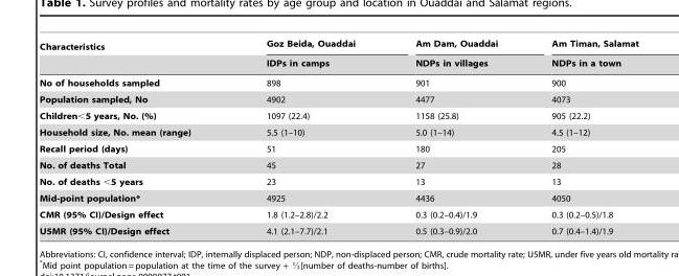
<table><thead><tr><td rowspan="2">Characteristics</td><td rowspan="2">Goz Beida, Ouaddai IDPs in camps</td><td rowspan="2">Am Dam, Ouaddai NDPs in villages</td><td rowspan="2">Am Timan, Salamat NDPs in a town</td></tr><tr></tr></thead><tbody><tr><td>No of households sampled</td><td>898</td><td>901</td><td>900</td></tr><tr><td>Population sampled, No</td><td>4902</td><td>4477</td><td>4073</td></tr><tr><td>Children&lt;5 years, No. (%)</td><td>1097 (22.4)</td><td>1158 (25.8)</td><td>905 (22.2)</td></tr><tr><td>Household size, No. mean (range)</td><td>5.5 (1–10)</td><td>5.0 (1–14)</td><td>4.5 (1–12)</td></tr><tr><td>Recall period (days)</td><td>51</td><td>180</td><td>205</td></tr><tr><td>No. of deaths Total</td><td>45</td><td>27</td><td>28</td></tr><tr><td>No. of deaths &lt;5 years</td><td>23</td><td>13</td><td>13</td></tr><tr><td>Mid-point population*</td><td>4925</td><td>4436</td><td>4050</td></tr><tr><td>CMR (95% CI)/Design effect</td><td>1.8 (1.2–2.8)/2.2</td><td>0.3 (0.2–0.4)/1.9</td><td>0.3 (0.2–0.5)/1.8</td></tr><tr><td>U5MR (95% CI)/Design effect</td><td>4.1 (2.1–7.7)/2.1</td><td>0.5 (0.3–0.9)/2.0</td><td>0.7 (0.4–1.4)/1.9</td></tr></tbody></table>